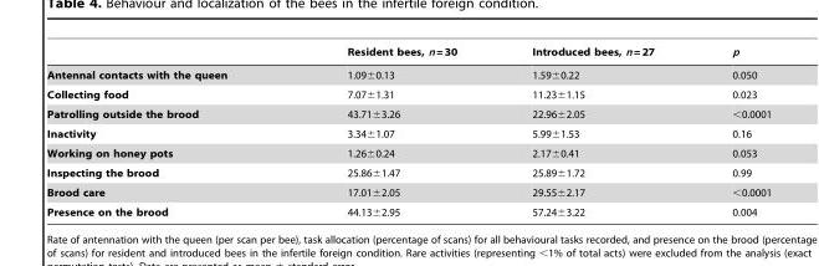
<table><thead><tr><td></td><td>Resident bees, n = 30</td><td>Introduced bees, n = 27</td><td>p</td></tr></thead><tbody><tr><td>Antennal contacts with the queen</td><td>1.09±0.13</td><td>1.59±0.22</td><td>0.050</td></tr><tr><td>Collecting food</td><td>7.07±1.31</td><td>11.23±1.15</td><td>0.023</td></tr><tr><td>Patrolling outside the brood</td><td>43.71±3.26</td><td>22.96±2.05</td><td>&lt;0.0001</td></tr><tr><td>Inactivity</td><td>3.34±1.07</td><td>5.99±1.53</td><td>0.16</td></tr><tr><td>Working on honey pots</td><td>1.26±0.24</td><td>2.17±0.41</td><td>0.053</td></tr><tr><td>Inspecting the brood</td><td>25.86±1.47</td><td>25.89±1.72</td><td>0.99</td></tr><tr><td>Brood care</td><td>17.01±2.05</td><td>29.55±2.17</td><td>&lt;0.0001</td></tr><tr><td>Presence on the brood</td><td>44.13±2.95</td><td>57.24±3.22</td><td>0.004</td></tr></tbody></table>